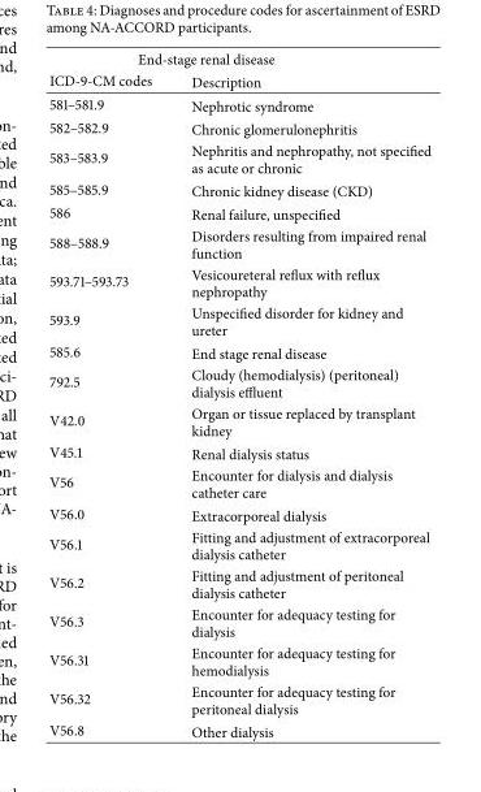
<table><thead><tr><td colspan="2">End-stage renal disease</td></tr><tr><td>ICD-9-CM codes</td><td>Description</td></tr></thead><tbody><tr><td>581–581.9</td><td>Nephrotic syndrome</td></tr><tr><td>582–582.9</td><td>Chronic glomerulonephritis</td></tr><tr><td>583–583.9</td><td>Nephritis and nephropathy, not specified as acute or chronic</td></tr><tr><td>585–585.9</td><td>Chronic kidney disease (CKD)</td></tr><tr><td>586</td><td>Renal failure, unspecified</td></tr><tr><td>588–588.9</td><td>Disorders resulting from impaired renal function</td></tr><tr><td>593.71–593.73</td><td>Vesicoureteral reflux with reflux nephropathy</td></tr><tr><td>593.9</td><td>Unspecified disorder for kidney and ureter</td></tr><tr><td>585.6</td><td>End stage renal disease</td></tr><tr><td>792.5</td><td>Cloudy (hemodialysis) (peritoneal) dialysis effluent</td></tr><tr><td>V42.0</td><td>Organ or tissue replaced by transplant kidney</td></tr><tr><td>V45.1</td><td>Renal dialysis status</td></tr><tr><td>V56</td><td>Encounter for dialysis and dialysis catheter care</td></tr><tr><td>V56.0</td><td>Extracorporeal dialysis</td></tr><tr><td>V56.1</td><td>Fitting and adjustment of extracorporeal dialysis catheter</td></tr><tr><td>V56.2</td><td>Fitting and adjustment of peritoneal dialysis catheter</td></tr><tr><td>V56.3</td><td>Encounter for adequacy testing for dialysis</td></tr><tr><td>V56.31</td><td>Encounter for adequacy testing for hemodialysis</td></tr><tr><td>V56.32</td><td>Encounter for adequacy testing for peritoneal dialysis</td></tr><tr><td>V56.8</td><td>Other dialysis</td></tr></tbody></table>